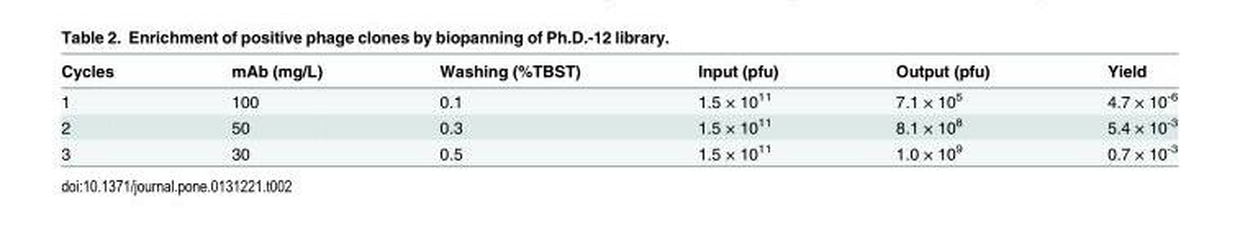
<table><thead><tr><td>Cycles</td><td>mAb (mg/L)</td><td>Washing (%TBST)</td><td>Input (pfu)</td><td>Output (pfu)</td><td>Yield</td></tr></thead><tbody><tr><td>1</td><td>100</td><td>0.1</td><td>1.5 × 10<sup>11</sup></td><td>7.1 × 10<sup>5</sup></td><td>4.7 × 10<sup>-6</sup></td></tr><tr><td>2</td><td>50</td><td>0.3</td><td>1.5 × 10<sup>11</sup></td><td>8.1 × 10<sup>8</sup></td><td>5.4 × 10<sup>-3</sup></td></tr><tr><td>3</td><td>30</td><td>0.5</td><td>1.5 × 10<sup>11</sup></td><td>1.0 × 10<sup>9</sup></td><td>0.7 × 10<sup>-3</sup></td></tr></tbody></table>